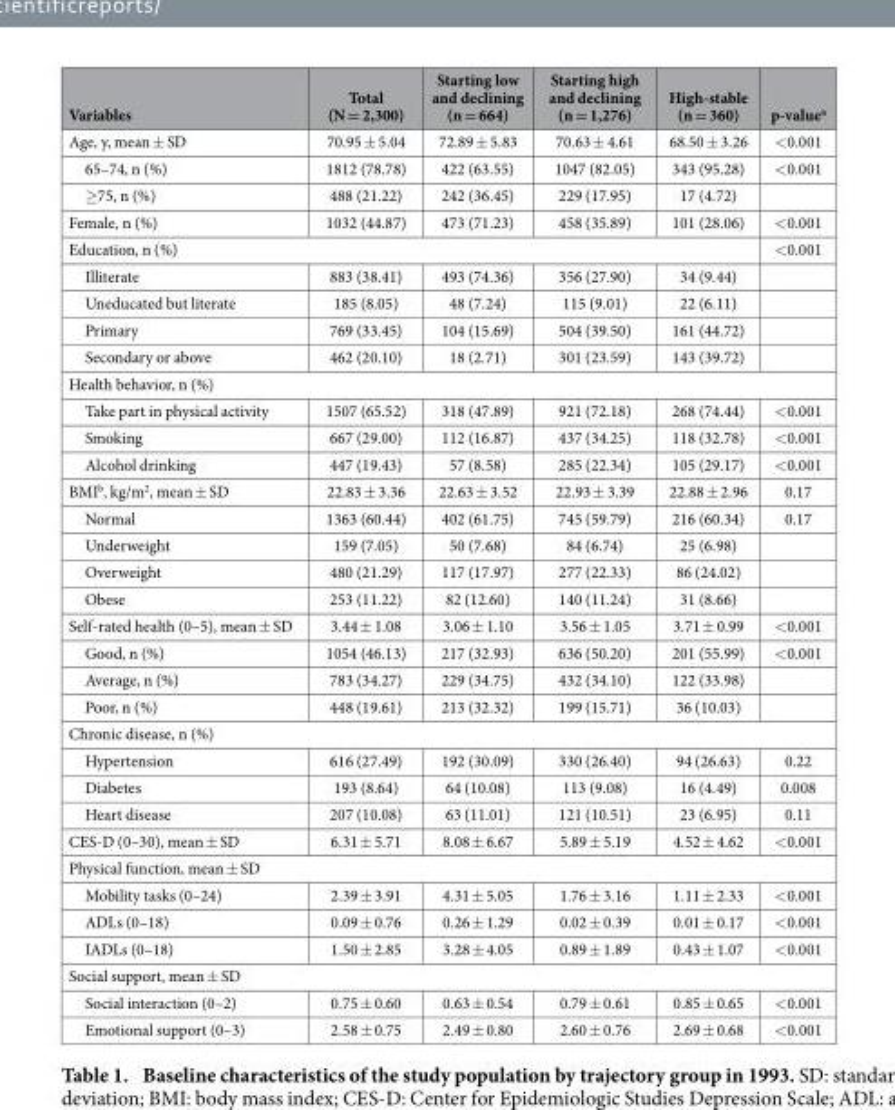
<table><thead><tr><td>Variables</td><td>Total (N = 2,300)</td><td>Starting low and declining (n = 664)</td><td>Starting high and declining (n = 1,276)</td><td>High-stable (n = 360)</td><td>p-value<sup>a</sup></td></tr></thead><tbody><tr><td>Age, y, mean ± SD</td><td>70.95 ± 5.04</td><td>72.89 ± 5.83</td><td>70.63 ± 4.61</td><td>68.50 ± 3.26</td><td>&lt; 0.001</td></tr><tr><td>65–74, n (%)</td><td>1812 (78.78)</td><td>422 (63.55)</td><td>1047 (82.05)</td><td>343 (95.28)</td><td>&lt; 0.001</td></tr><tr><td>≥ 75, n (%)</td><td>488 (21.22)</td><td>242 (36.45)</td><td>229 (17.95)</td><td>17 (4.72)</td><td></td></tr><tr><td>Female, n (%)</td><td>1032 (44.87)</td><td>473 (71.23)</td><td>458 (35.89)</td><td>101 (28.06)</td><td>&lt; 0.001</td></tr><tr><td colspan="5">Education, n (%)</td><td>&lt; 0.001</td></tr><tr><td>Illiterate</td><td>883 (38.41)</td><td>493 (74.36)</td><td>356 (27.90)</td><td>34 (9.44)</td><td></td></tr><tr><td>Uneducated but literate</td><td>185 (8.05)</td><td>48 (7.24)</td><td>115 (9.01)</td><td>22 (6.11)</td><td></td></tr><tr><td>Primary</td><td>769 (33.45)</td><td>104 (15.69)</td><td>504 (39.50)</td><td>161 (44.72)</td><td></td></tr><tr><td>Secondary or above</td><td>462 (20.10)</td><td>18 (2.71)</td><td>301 (23.59)</td><td>143 (39.72)</td><td></td></tr><tr><td colspan="6">Health behavior, n (%)</td></tr><tr><td>Take part in physical activity</td><td>1507 (65.52)</td><td>318 (47.89)</td><td>921 (72.18)</td><td>268 (74.44)</td><td>&lt; 0.001</td></tr><tr><td>Smoking</td><td>667 (29.00)</td><td>112 (16.87)</td><td>437 (34.25)</td><td>118 (32.78)</td><td>&lt; 0.001</td></tr><tr><td>Alcohol drinking</td><td>447 (19.43)</td><td>57 (8.58)</td><td>285 (22.34)</td><td>105 (29.17)</td><td>&lt; 0.001</td></tr><tr><td>BMI<sup>b</sup>, kg/m<sup>2</sup>, mean ± SD</td><td>22.83 ± 3.36</td><td>22.63 ± 3.52</td><td>22.93 ± 3.39</td><td>22.88 ± 2.96</td><td>0.17</td></tr><tr><td>Normal</td><td>1363 (60.44)</td><td>402 (61.75)</td><td>745 (59.79)</td><td>216 (60.34)</td><td>0.17</td></tr><tr><td>Underweight</td><td>159 (7.05)</td><td>50 (7.68)</td><td>84 (6.74)</td><td>25 (6.98)</td><td></td></tr><tr><td>Overweight</td><td>480 (21.29)</td><td>117 (17.97)</td><td>277 (22.33)</td><td>86 (24.02)</td><td></td></tr><tr><td>Obese</td><td>253 (11.22)</td><td>82 (12.60)</td><td>140 (11.24)</td><td>31 (8.66)</td><td></td></tr><tr><td>Self-rated health (0–5), mean ± SD</td><td>3.44 ± 1.08</td><td>3.06 ± 1.10</td><td>3.56 ± 1.05</td><td>3.71 ± 0.99</td><td>&lt; 0.001</td></tr><tr><td>Good, n (%)</td><td>1054 (46.13)</td><td>217 (32.93)</td><td>636 (50.20)</td><td>201 (55.99)</td><td>&lt; 0.001</td></tr><tr><td>Average, n (%)</td><td>783 (34.27)</td><td>229 (34.75)</td><td>432 (34.10)</td><td>122 (33.98)</td><td></td></tr><tr><td>Poor, n (%)</td><td>448 (19.61)</td><td>213 (32.32)</td><td>199 (15.71)</td><td>36 (10.03)</td><td></td></tr><tr><td colspan="6">Chronic disease, n (%)</td></tr><tr><td>Hypertension</td><td>616 (27.49)</td><td>192 (30.09)</td><td>330 (26.40)</td><td>94 (26.63)</td><td>0.22</td></tr><tr><td>Diabetes</td><td>193 (8.64)</td><td>64 (10.08)</td><td>113 (9.08)</td><td>16 (4.49)</td><td>0.008</td></tr><tr><td>Heart disease</td><td>207 (10.08)</td><td>63 (11.01)</td><td>121 (10.51)</td><td>23 (6.95)</td><td>0.11</td></tr><tr><td>CES-D (0–30), mean ± SD</td><td>6.31 ± 5.71</td><td>8.08 ± 6.67</td><td>5.89 ± 5.19</td><td>4.52 ± 4.62</td><td>&lt; 0.001</td></tr><tr><td colspan="6">Physical function, mean ± SD</td></tr><tr><td>Mobility tasks (0–24)</td><td>2.39 ± 3.91</td><td>4.31 ± 5.05</td><td>1.76 ± 3.16</td><td>1.11 ± 2.33</td><td>&lt; 0.001</td></tr><tr><td>ADLs (0–18)</td><td>0.09 ± 0.76</td><td>0.26 ± 1.29</td><td>0.02 ± 0.39</td><td>0.01 ± 0.17</td><td>&lt; 0.001</td></tr><tr><td>IADLs (0–18)</td><td>1.50 ± 2.85</td><td>3.28 ± 4.05</td><td>0.89 ± 1.89</td><td>0.43 ± 1.07</td><td>&lt; 0.001</td></tr><tr><td colspan="6">Social support, mean ± SD</td></tr><tr><td>Social interaction (0–2)</td><td>0.75 ± 0.60</td><td>0.63 ± 0.54</td><td>0.79 ± 0.61</td><td>0.85 ± 0.65</td><td>&lt; 0.001</td></tr><tr><td>Emotional support (0–3)</td><td>2.58 ± 0.75</td><td>2.49 ± 0.80</td><td>2.60 ± 0.76</td><td>2.69 ± 0.68</td><td>&lt; 0.001</td></tr></tbody></table>